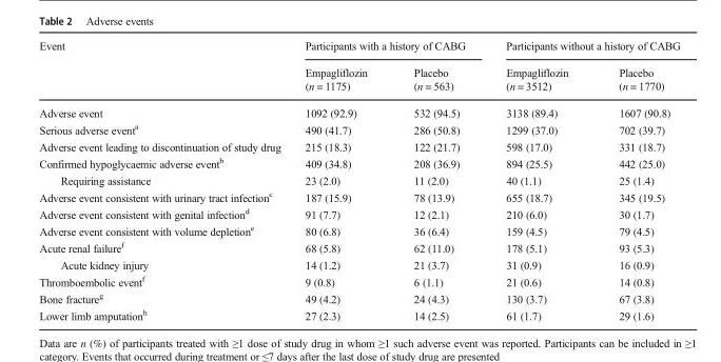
<table><thead><tr><td rowspan="2">Event</td><td colspan="2">Participants with a history of CABG</td><td colspan="2">Participants without a history of CABG</td></tr><tr><td>Empagliflozin (n = 1175)</td><td>Placebo (n = 563)</td><td>Empagliflozin (n = 3512)</td><td>Placebo (n = 1770)</td></tr></thead><tbody><tr><td>Adverse event</td><td>1092 (92.9)</td><td>532 (94.5)</td><td>3138 (89.4)</td><td>1607 (90.8)</td></tr><tr><td>Serious adverse event<sup>a</sup></td><td>490 (41.7)</td><td>286 (50.8)</td><td>1299 (37.0)</td><td>702 (39.7)</td></tr><tr><td>Adverse event leading to discontinuation of study drug</td><td>215 (18.3)</td><td>122 (21.7)</td><td>598 (17.0)</td><td>331 (18.7)</td></tr><tr><td>Confirmed hypoglycaemic adverse event<sup>b</sup></td><td>409 (34.8)</td><td>208 (36.9)</td><td>894 (25.5)</td><td>442 (25.0)</td></tr><tr><td>Requiring assistance</td><td>23 (2.0)</td><td>11 (2.0)</td><td>40 (1.1)</td><td>25 (1.4)</td></tr><tr><td>Adverse event consistent with urinary tract infection<sup>c</sup></td><td>187 (15.9)</td><td>78 (13.9)</td><td>655 (18.7)</td><td>345 (19.5)</td></tr><tr><td>Adverse event consistent with genital infection<sup>d</sup></td><td>91 (7.7)</td><td>12 (2.1)</td><td>210 (6.0)</td><td>30 (1.7)</td></tr><tr><td>Adverse event consistent with volume depletion<sup>e</sup></td><td>80 (6.8)</td><td>36 (6.4)</td><td>159 (4.5)</td><td>79 (4.5)</td></tr><tr><td>Acute renal failure<sup>f</sup></td><td>68 (5.8)</td><td>62 (11.0)</td><td>178 (5.1)</td><td>93 (5.3)</td></tr><tr><td>Acute kidney injury</td><td>14 (1.2)</td><td>21 (3.7)</td><td>31 (0.9)</td><td>16 (0.9)</td></tr><tr><td>Thromboembolic event<sup>f</sup></td><td>9 (0.8)</td><td>6 (1.1)</td><td>21 (0.6)</td><td>14 (0.8)</td></tr><tr><td>Bone fracture<sup>g</sup></td><td>49 (4.2)</td><td>24 (4.3)</td><td>130 (3.7)</td><td>67 (3.8)</td></tr><tr><td>Lower limb amputation<sup>h</sup></td><td>27 (2.3)</td><td>14 (2.5)</td><td>61 (1.7)</td><td>29 (1.6)</td></tr></tbody></table>